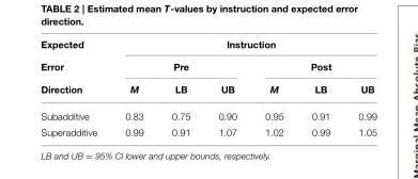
<table><thead><tr><td rowspan="3">Expected Error Direction</td><td colspan="6">Instruction</td></tr><tr><td colspan="3">Pre</td><td colspan="3">Post</td></tr><tr><td>M</td><td>LB</td><td>UB</td><td>M</td><td>LB</td><td>UB</td></tr></thead><tbody><tr><td>Subadditive</td><td>0.83</td><td>0.75</td><td>0.90</td><td>0.95</td><td>0.91</td><td>0.99</td></tr><tr><td>Superadditive</td><td>0.99</td><td>0.91</td><td>1.07</td><td>1.02</td><td>0.99</td><td>1.05</td></tr></tbody></table>